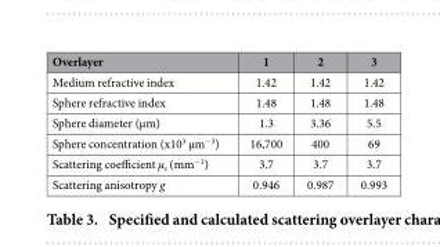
<table><thead><tr><td>Overlayer</td><td>1</td><td>2</td><td>3</td></tr></thead><tbody><tr><td>Medium refractive index</td><td>1.42</td><td>1.42</td><td>1.42</td></tr><tr><td>Sphere refractive index</td><td>1.48</td><td>1.48</td><td>1.48</td></tr><tr><td>Sphere diameter (μm)</td><td>1.3</td><td>3.36</td><td>5.5</td></tr><tr><td>Sphere concentration (x10<sup>3</sup> μm<sup>−3</sup>)</td><td>16,700</td><td>400</td><td>69</td></tr><tr><td>Scattering coefficient μ<sub>s</sub> (mm<sup>−1</sup>)</td><td>3.7</td><td>3.7</td><td>3.7</td></tr><tr><td>Scattering anisotropy g</td><td>0.946</td><td>0.987</td><td>0.993</td></tr></tbody></table>